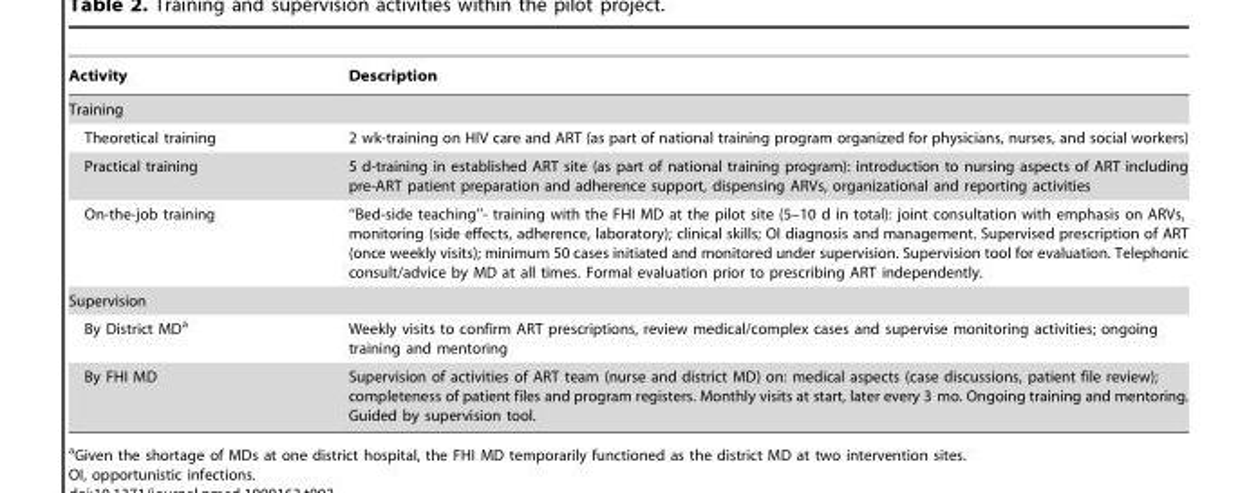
<table><thead><tr><td>Activity</td><td>Description</td></tr></thead><tbody><tr><td colspan="2">Training</td></tr><tr><td>Theoretical training</td><td>2 wk-training on HIV care and ART (as part of national training program organized for physicians, nurses, and social workers)</td></tr><tr><td>Practical training</td><td>5 d-training in established ART site (as part of national training program): introduction to nursing aspects of ART including pre-ART patient preparation and adherence support, dispensing ARVs, organizational and reporting activities</td></tr><tr><td>On-the-job training</td><td>‘‘Bed-side teaching’’- training with the FHI MD at the pilot site (5–10 d in total): joint consultation with emphasis on ARVs, monitoring (side effects, adherence, laboratory); clinical skills; OI diagnosis and management. Supervised prescription of ART (once weekly visits); minimum 50 cases initiated and monitored under supervision. Supervision tool for evaluation. Telephonic consult/advice by MD at all times. Formal evaluation prior to prescribing ART independently.</td></tr><tr><td colspan="2">Supervision</td></tr><tr><td>By District MD<sup>a</sup></td><td>Weekly visits to confirm ART prescriptions, review medical/complex cases and supervise monitoring activities; ongoing training and mentoring</td></tr><tr><td>By FHI MD</td><td>Supervision of activities of ART team (nurse and district MD) on: medical aspects (case discussions, patient file review); completeness of patient files and program registers. Monthly visits at start, later every 3 mo. Ongoing training and mentoring. Guided by supervision tool.</td></tr></tbody></table>